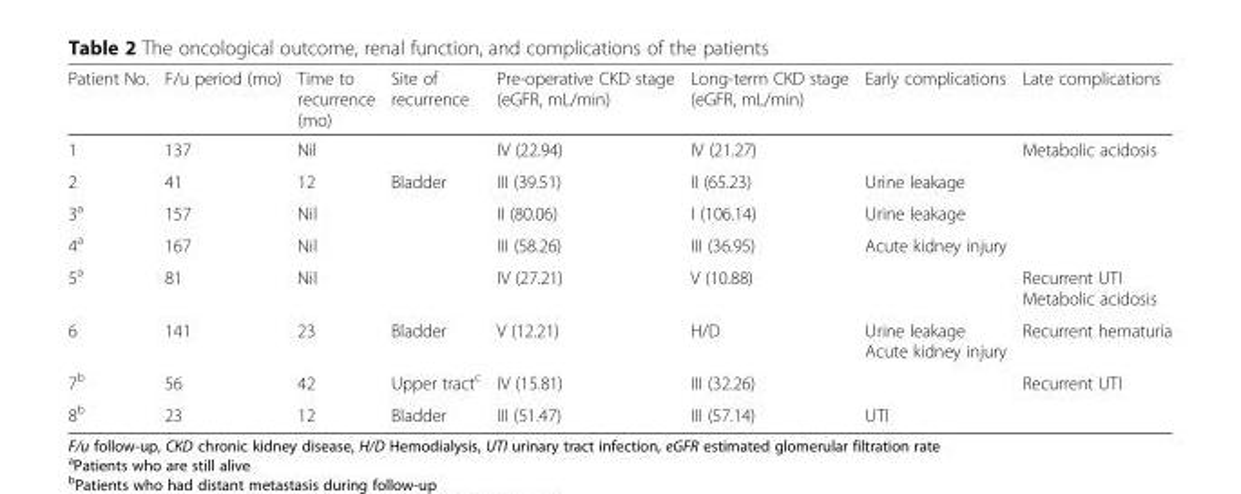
<table><thead><tr><td>Patient No.</td><td>F/u period (mo)</td><td>Time to recurrence (mo)</td><td>Site of recurrence</td><td>Pre-operative CKD stage (eGFR, mL/min)</td><td>Long-term CKD stage (eGFR, mL/min)</td><td>Early complications</td><td>Late complications</td></tr></thead><tbody><tr><td>1</td><td>137</td><td>Nil</td><td></td><td>IV (22.94)</td><td>IV (21.27)</td><td></td><td>Metabolic acidosis</td></tr><tr><td>2</td><td>41</td><td>12</td><td>Bladder</td><td>III (39.51)</td><td>II (65.23)</td><td>Urine leakage</td><td></td></tr><tr><td>3<sup>a</sup></td><td>157</td><td>Nil</td><td></td><td>II (80.06)</td><td>I (106.14)</td><td>Urine leakage</td><td></td></tr><tr><td>4<sup>a</sup></td><td>167</td><td>Nil</td><td></td><td>III (58.26)</td><td>III (36.95)</td><td>Acute kidney injury</td><td></td></tr><tr><td>5<sup>a</sup></td><td>81</td><td>Nil</td><td></td><td>IV (27.21)</td><td>V (10.88)</td><td></td><td>Recurrent UTI Metabolic acidosis</td></tr><tr><td>6</td><td>141</td><td>23</td><td>Bladder</td><td>V (12.21)</td><td>H/D</td><td>Urine leakage Acute kidney injury</td><td>Recurrent hematuria</td></tr><tr><td>7<sup>b</sup></td><td>56</td><td>42</td><td>Upper tract<sup>c</sup></td><td>IV (15.81)</td><td>III (32.26)</td><td></td><td>Recurrent UTI</td></tr><tr><td>8<sup>b</sup></td><td>23</td><td>12</td><td>Bladder</td><td>III (51.47)</td><td>III (57.14)</td><td>UTI</td><td></td></tr></tbody></table>